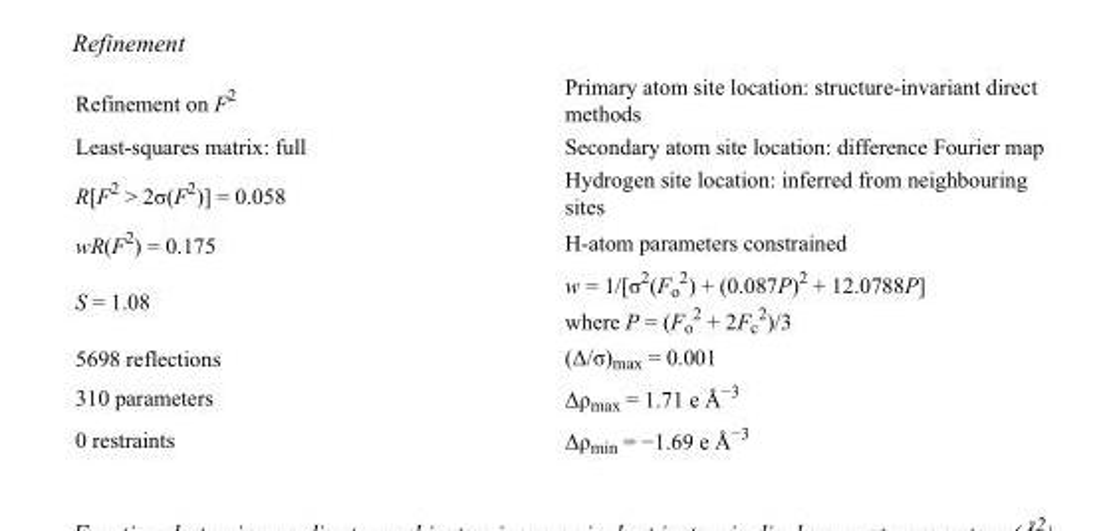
<table><tbody><tr><td>Refinement on F<sup>2</sup></td><td>Primary atom site location: structure-invariant direct methods</td></tr><tr><td>Least-squares matrix: full</td><td>Secondary atom site location: difference Fourier map</td></tr><tr><td>R[F<sup>2</sup> &gt; 2σ(F<sup>2</sup>)] = 0.058</td><td>Hydrogen site location: inferred from neighbouring sites</td></tr><tr><td>wR(F<sup>2</sup>) = 0.175</td><td>H-atom parameters constrained</td></tr><tr><td>S = 1.08</td><td>w = 1/[σ<sup>2</sup>(F<sub>o</sub> <sup>2</sup>) + (0.087P)<sup>2</sup> + 12.0788P] where P = (F<sub>o</sub> <sup>2</sup> + 2F<sub>c</sub> <sup>2</sup>)/3</td></tr><tr><td>5698 reflections</td><td>(Δ/σ)<sub>max</sub> = 0.001</td></tr><tr><td>310 parameters</td><td>Δρ<sub>max</sub> = 1.71 e Å<sup>−3</sup></td></tr><tr><td>0 restraints</td><td>Δρ<sub>min</sub> = −1.69 e Å<sup>−3</sup></td></tr></tbody></table>